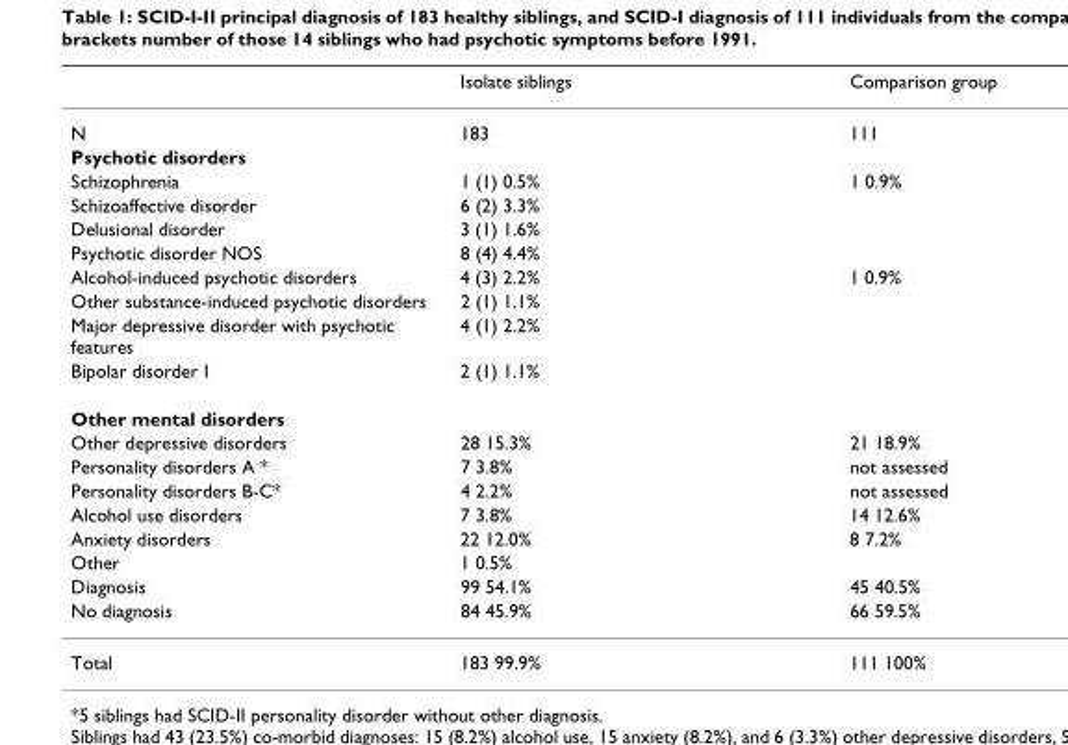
<table><thead><tr><td></td><td>Isolate siblings</td><td>Comparison group</td></tr></thead><tbody><tr><td>N</td><td>183</td><td>111</td></tr><tr><td colspan="3">Psychotic disorders</td></tr><tr><td>Schizophrenia</td><td>1 (1) 0.5%</td><td>1 0.9%</td></tr><tr><td>Schizoaffective disorder</td><td>6 (2) 3.3%</td><td></td></tr><tr><td>Delusional disorder</td><td>3 (1) 1.6%</td><td></td></tr><tr><td>Psychotic disorder NOS</td><td>8 (4) 4.4%</td><td></td></tr><tr><td>Alcohol-induced psychotic disorders</td><td>4 (3) 2.2%</td><td>1 0.9%</td></tr><tr><td>Other substance-induced psychotic disorders</td><td>2 (1) 1.1%</td><td></td></tr><tr><td>Major depressive disorder with psychotic features</td><td>4 (1) 2.2%</td><td></td></tr><tr><td>Bipolar disorder I</td><td>2 (1) 1.1%</td><td></td></tr><tr><td colspan="3">Other mental disorders</td></tr><tr><td>Other depressive disorders</td><td>28 15.3%</td><td>21 18.9%</td></tr><tr><td>Personality disorders A *</td><td>7 3.8%</td><td>not assessed</td></tr><tr><td>Personality disorders B-C*</td><td>4 2.2%</td><td>not assessed</td></tr><tr><td>Alcohol use disorders</td><td>7 3.8%</td><td>14 12.6%</td></tr><tr><td>Anxiety disorders</td><td>22 12.0%</td><td>8 7.2%</td></tr><tr><td>Other</td><td>1 0.5%</td><td></td></tr><tr><td>Diagnosis</td><td>99 54.1%</td><td>45 40.5%</td></tr><tr><td>No diagnosis</td><td>84 45.9%</td><td>66 59.5%</td></tr><tr><td>Total</td><td>183 99.9%</td><td>111 100%</td></tr></tbody></table>